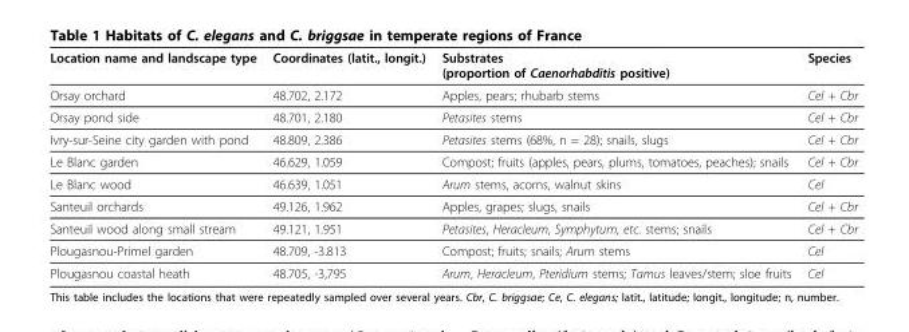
<table><thead><tr><td>Location name and landscape type</td><td>Coordinates (latit., longit.)</td><td>Substrates (proportion of Caenorhabditis positive)</td><td>Species</td></tr></thead><tbody><tr><td>Orsay orchard</td><td>48.702, 2.172</td><td>Apples, pears; rhubarb stems</td><td>Cel + Cbr</td></tr><tr><td>Orsay pond side</td><td>48.701, 2.180</td><td>Petasites stems</td><td>Cel + Cbr</td></tr><tr><td>Ivry-sur-Seine city garden with pond</td><td>48.809, 2.386</td><td>Petasites stems (68%, n = 28); snails, slugs</td><td>Cel + Cbr</td></tr><tr><td>Le Blanc garden</td><td>46.629, 1.059</td><td>Compost; fruits (apples, pears, plums, tomatoes, peaches); snails</td><td>Cel + Cbr</td></tr><tr><td>Le Blanc wood</td><td>46.639, 1.051</td><td>Arum stems, acorns, walnut skins</td><td>Cel</td></tr><tr><td>Santeuil orchards</td><td>49.126, 1.962</td><td>Apples, grapes; slugs, snails</td><td>Cel + Cbr</td></tr><tr><td>Santeuil wood along small stream</td><td>49.121, 1.951</td><td>Petasites, Heracleum, Symphytum, etc. stems; snails</td><td>Cel + Cbr</td></tr><tr><td>Plougasnou-Primel garden</td><td>48.709, -3.813</td><td>Compost; fruits; snails; Arum stems</td><td>Cel</td></tr><tr><td>Plougasnou coastal heath</td><td>48.705, -3,795</td><td>Arum, Heracleum, Pteridium stems; Tamus leaves/stem; sloe fruits</td><td>Cel</td></tr></tbody></table>